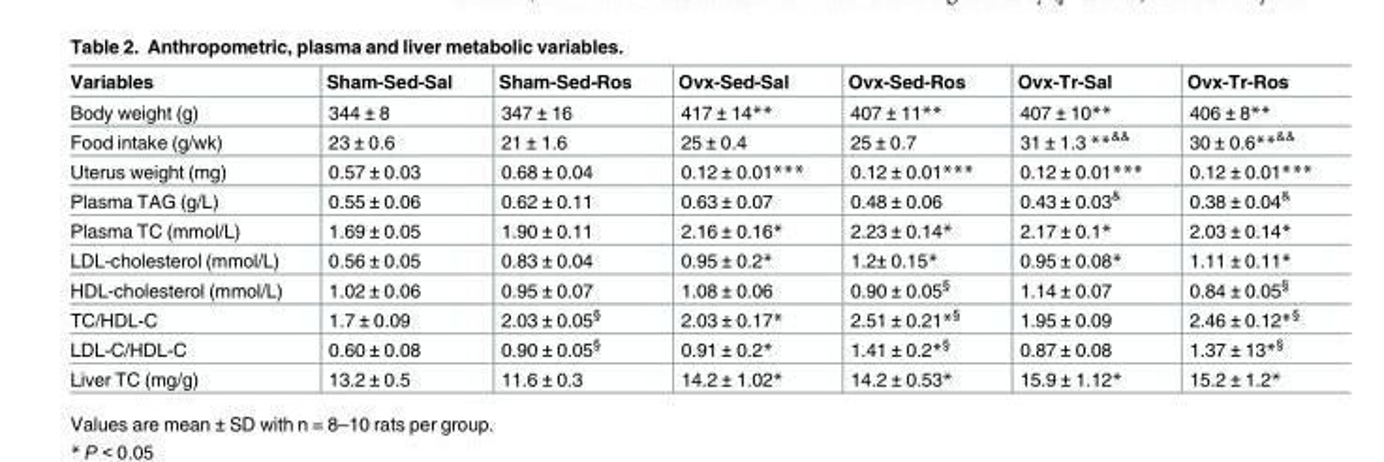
<table><thead><tr><td>Variables</td><td>Sham-Sed-Sal</td><td>Sham-Sed-Ros</td><td>Ovx-Sed-Sal</td><td>Ovx-Sed-Ros</td><td>Ovx-Tr-Sal</td><td>Ovx-Tr-Ros</td></tr></thead><tbody><tr><td>Body weight (g)</td><td>344 ± 8</td><td>347 ± 16</td><td>417 ± 14**</td><td>407 ± 11**</td><td>407 ± 10**</td><td>406 ± 8**</td></tr><tr><td>Food intake (g/wk)</td><td>23 ± 0.6</td><td>21 ± 1.6</td><td>25 ± 0.4</td><td>25 ± 0.7</td><td>31 ± 1.3 **<sup>&amp;&amp;</sup></td><td>30 ± 0.6**<sup>&amp;&amp;</sup></td></tr><tr><td>Uterus weight (mg)</td><td>0.57 ± 0.03</td><td>0.68 ± 0.04</td><td>0.12 ± 0.01***</td><td>0.12 ± 0.01***</td><td>0.12 ± 0.01***</td><td>0.12 ± 0.01***</td></tr><tr><td>Plasma TAG (g/L)</td><td>0.55 ± 0.06</td><td>0.62 ± 0.11</td><td>0.63 ± 0.07</td><td>0.48 ± 0.06</td><td>0.43 ± 0.03<sup>&amp;</sup></td><td>0.38 ± 0.04<sup>&amp;</sup></td></tr><tr><td>Plasma TC (mmol/L)</td><td>1.69 ± 0.05</td><td>1.90 ± 0.11</td><td>2.16 ± 0.16*</td><td>2.23 ± 0.14*</td><td>2.17 ± 0.1*</td><td>2.03 ± 0.14*</td></tr><tr><td>LDL-cholesterol (mmol/L)</td><td>0.56 ± 0.05</td><td>0.83 ± 0.04</td><td>0.95 ± 0.2*</td><td>1.2± 0.15*</td><td>0.95 ± 0.08*</td><td>1.11 ± 0.11*</td></tr><tr><td>HDL-cholesterol (mmol/L)</td><td>1.02 ± 0.06</td><td>0.95 ± 0.07</td><td>1.08 ± 0.06</td><td>0.90 ± 0.05<sup>§</sup></td><td>1.14 ± 0.07</td><td>0.84 ± 0.05<sup>§</sup></td></tr><tr><td>TC/HDL-C</td><td>1.7 ± 0.09</td><td>2.03 ± 0.05<sup>§</sup></td><td>2.03 ± 0.17*</td><td>2.51 ± 0.21*<sup>§</sup></td><td>1.95 ± 0.09</td><td>2.46 ± 0.12*<sup>§</sup></td></tr><tr><td>LDL-C/HDL-C</td><td>0.60 ± 0.08</td><td>0.90 ± 0.05<sup>§</sup></td><td>0.91 ± 0.2*</td><td>1.41 ± 0.2*<sup>§</sup></td><td>0.87 ± 0.08</td><td>1.37 ± 13*<sup>§</sup></td></tr><tr><td>Liver TC (mg/g)</td><td>13.2 ± 0.5</td><td>11.6 ± 0.3</td><td>14.2 ± 1.02*</td><td>14.2 ± 0.53*</td><td>15.9 ± 1.12*</td><td>15.2 ± 1.2*</td></tr></tbody></table>